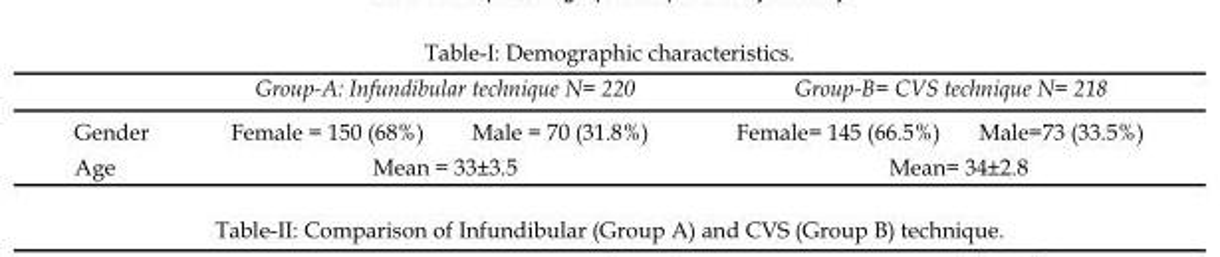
<table><thead><tr><td rowspan="2">Gender</td><td colspan="2">Group-A: Infundibular technique N= 220</td><td colspan="2">Group-B= CVS technique N= 218</td></tr><tr><td>Female = 150 (68%)</td><td>Male = 70 (31.8%)</td><td>Female= 145 (66.5%)</td><td>Male=73 (33.5%)</td></tr></thead><tbody><tr><td>Age</td><td colspan="2">Mean = 33±3.5</td><td colspan="2">Mean= 34±2.8</td></tr></tbody></table>